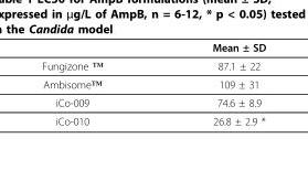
<table><thead><tr><td></td><td>Mean ± SD</td></tr></thead><tbody><tr><td>Fungizone ™</td><td>87.1 ± 22</td></tr><tr><td>Ambisome™</td><td>109 ± 31</td></tr><tr><td>iCo-009</td><td>74.6 ± 8.9</td></tr><tr><td>iCo-010</td><td>26.8 ± 2.9 *</td></tr></tbody></table>